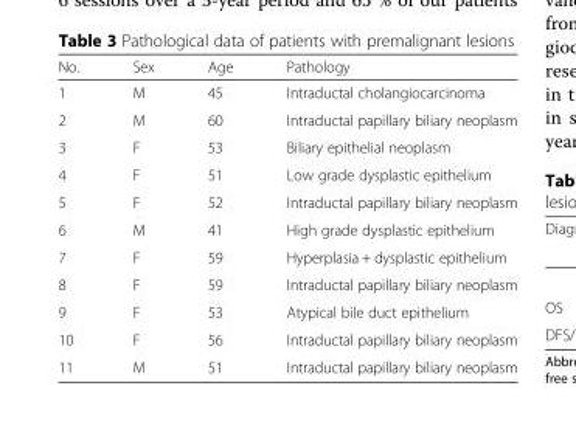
<table><thead><tr><td>No.</td><td>Sex</td><td>Age</td><td>Pathology</td></tr></thead><tbody><tr><td>1</td><td>M</td><td>45</td><td>Intraductal cholangiocarcinoma</td></tr><tr><td>2</td><td>M</td><td>60</td><td>Intraductal papillary biliary neoplasm</td></tr><tr><td>3</td><td>F</td><td>53</td><td>Biliary epithelial neoplasm</td></tr><tr><td>4</td><td>F</td><td>51</td><td>Low grade dysplastic epithelium</td></tr><tr><td>5</td><td>F</td><td>52</td><td>Intraductal papillary biliary neoplasm</td></tr><tr><td>6</td><td>M</td><td>41</td><td>High grade dysplastic epithelium</td></tr><tr><td>7</td><td>F</td><td>59</td><td>Hyperplasia + dysplastic epithelium</td></tr><tr><td>8</td><td>F</td><td>59</td><td>Intraductal papillary biliary neoplasm</td></tr><tr><td>9</td><td>F</td><td>53</td><td>Atypical bile duct epithelium</td></tr><tr><td>10</td><td>F</td><td>56</td><td>Intraductal papillary biliary neoplasm</td></tr><tr><td>11</td><td>M</td><td>51</td><td>Intraductal papillary biliary neoplasm</td></tr></tbody></table>